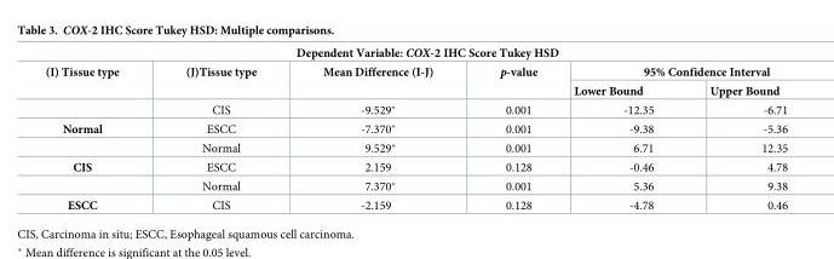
<table><thead><tr><td colspan="6">Dependent Variable: COX-2 IHC Score Tukey HSD</td></tr><tr><td rowspan="2">(I) Tissue type</td><td rowspan="2">(J)Tissue type</td><td rowspan="2">Mean Difference (I-J)</td><td rowspan="2">p-value</td><td colspan="2">95% Confidence Interval</td></tr><tr><td>Lower Bound</td><td>Upper Bound</td></tr></thead><tbody><tr><td></td><td>CIS</td><td>-9.529*</td><td>0.001</td><td>-12.35</td><td>-6.71</td></tr><tr><td rowspan="2">Normal</td><td>ESCC</td><td>-7.370*</td><td>0.001</td><td>-9.38</td><td>-5.36</td></tr><tr><td>Normal</td><td>9.529*</td><td>0.001</td><td>6.71</td><td>12.35</td></tr><tr><td rowspan="2">CIS</td><td>ESCC</td><td>2.159</td><td>0.128</td><td>-0.46</td><td>4.78</td></tr><tr><td>Normal</td><td>7.370*</td><td>0.001</td><td>5.36</td><td>9.38</td></tr><tr><td>ESCC</td><td>CIS</td><td>-2.159</td><td>0.128</td><td>-4.78</td><td>0.46</td></tr></tbody></table>